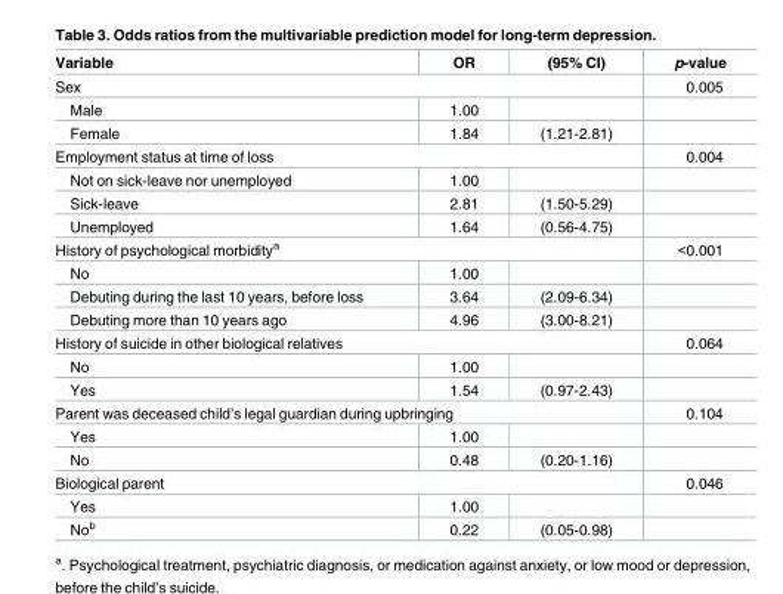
<table><thead><tr><td>Variable</td><td>OR</td><td>(95% CI)</td><td>p-value</td></tr></thead><tbody><tr><td colspan="3">Sex</td><td>0.005</td></tr><tr><td>Male</td><td>1.00</td><td></td><td></td></tr><tr><td>Female</td><td>1.84</td><td>(1.21-2.81)</td><td></td></tr><tr><td colspan="3">Employment status at time of loss</td><td>0.004</td></tr><tr><td>Not on sick-leave nor unemployed</td><td>1.00</td><td></td><td></td></tr><tr><td>Sick-leave</td><td>2.81</td><td>(1.50-5.29)</td><td></td></tr><tr><td>Unemployed</td><td>1.64</td><td>(0.56-4.75)</td><td></td></tr><tr><td colspan="3">History of psychological morbidity<sup>a</sup></td><td>&lt;0.001</td></tr><tr><td>No</td><td>1.00</td><td></td><td></td></tr><tr><td>Debuting during the last 10 years, before loss</td><td>3.64</td><td>(2.09-6.34)</td><td></td></tr><tr><td>Debuting more than 10 years ago</td><td>4.96</td><td>(3.00-8.21)</td><td></td></tr><tr><td colspan="3">History of suicide in other biological relatives</td><td>0.064</td></tr><tr><td>No</td><td>1.00</td><td></td><td></td></tr><tr><td>Yes</td><td>1.54</td><td>(0.97-2.43)</td><td></td></tr><tr><td colspan="3">Parent was deceased child’s legal guardian during upbringing</td><td>0.104</td></tr><tr><td>Yes</td><td>1.00</td><td></td><td></td></tr><tr><td>No</td><td>0.48</td><td>(0.20-1.16)</td><td></td></tr><tr><td colspan="3">Biological parent</td><td>0.046</td></tr><tr><td>Yes</td><td>1.00</td><td></td><td></td></tr><tr><td>No<sup>b</sup></td><td>0.22</td><td>(0.05-0.98)</td><td></td></tr></tbody></table>